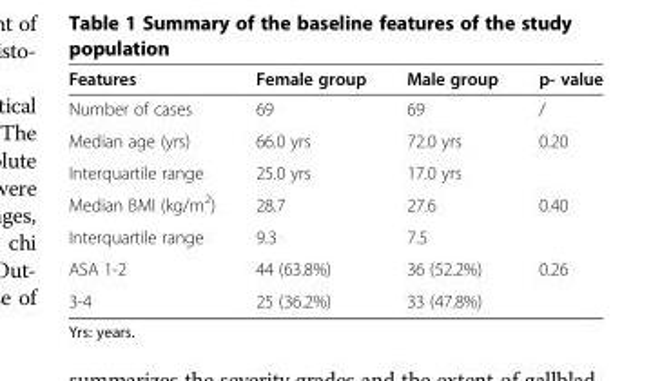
<table><thead><tr><td>Features</td><td>Female group</td><td>Male group</td><td>p- value</td></tr></thead><tbody><tr><td>Number of cases</td><td>69</td><td>69</td><td>/</td></tr><tr><td>Median age (yrs)</td><td>66.0 yrs</td><td>72.0 yrs</td><td rowspan="2">0.20</td></tr><tr><td>Interquartile range</td><td>25.0 yrs</td><td>17.0 yrs</td></tr><tr><td>Median BMI (kg/m<sup>2</sup>)</td><td>28.7</td><td>27.6</td><td rowspan="2">0.40</td></tr><tr><td>Interquartile range</td><td>9.3</td><td>7.5</td></tr><tr><td>ASA 1-2</td><td>44 (63.8%)</td><td>36 (52.2%)</td><td rowspan="2">0.26</td></tr><tr><td>3-4</td><td>25 (36.2%)</td><td>33 (47.8%)</td></tr></tbody></table>